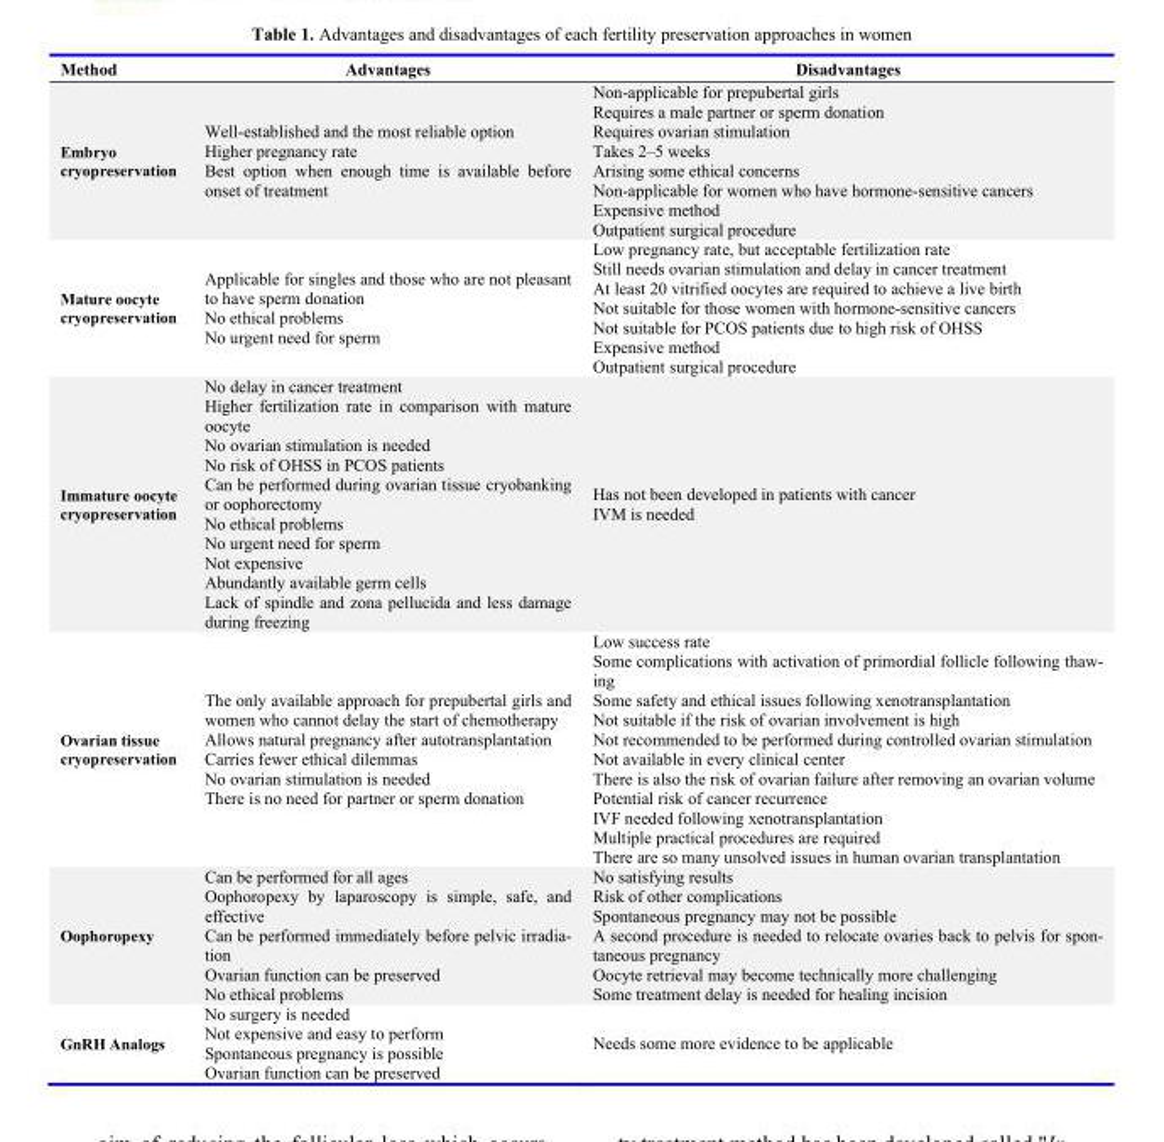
<table><thead><tr><td>Method</td><td>Advantages</td><td>Disadvantages</td></tr></thead><tbody><tr><td>Embryo cryopreservation</td><td>Well-established and the most reliable option Higher pregnancy rate Best option when enough time is available before onset of treatment</td><td>Non-applicable for prepubertal girls Requires a male partner or sperm donation Requires ovarian stimulation Takes 2–5 weeks Arising some ethical concerns Non-applicable for women who have hormone-sensitive cancers Expensive method Outpatient surgical procedure</td></tr><tr><td>Mature oocyte cryopreservation</td><td>Applicable for singles and those who are not pleasant to have sperm donation No ethical problems No urgent need for sperm</td><td>Low pregnancy rate, but acceptable fertilization rate Still needs ovarian stimulation and delay in cancer treatment At least 20 vitrified oocytes are required to achieve a live birth Not suitable for those women with hormone-sensitive cancers Not suitable for PCOS patients due to high risk of OHSS Expensive method Outpatient surgical procedure</td></tr><tr><td>Immature oocyte cryopreservation</td><td>No delay in cancer treatment Higher fertilization rate in comparison with mature oocyte No ovarian stimulation is needed No risk of OHSS in PCOS patients Can be performed during ovarian tissue cryobanking or oophorectomy No ethical problems No urgent need for sperm Not expensive Abundantly available germ cells Lack of spindle and zona pellucida and less damage during freezing</td><td>Has not been developed in patients with cancer IVM is needed</td></tr><tr><td>Ovarian tissue cryopreservation</td><td>The only available approach for prepubertal girls and women who cannot delay the start of chemotherapy Allows natural pregnancy after autotransplantation Carries fewer ethical dilemmas No ovarian stimulation is needed There is no need for partner or sperm donation</td><td>Low success rate Some complications with activation of primordial follicle following thaw- ing Some safety and ethical issues following xenotransplantation Not suitable if the risk of ovarian involvement is high Not recommended to be performed during controlled ovarian stimulation Not available in every clinical center There is also the risk of ovarian failure after removing an ovarian volume Potential risk of cancer recurrence IVF needed following xenotransplantation Multiple practical procedures are required There are so many unsolved issues in human ovarian transplantation</td></tr><tr><td>Oophoropexy</td><td>Can be performed for all ages Oophoropexy by laparoscopy is simple, safe, and effective Can be performed immediately before pelvic irradia- tion Ovarian function can be preserved No ethical problems</td><td>No satisfying results Risk of other complications Spontaneous pregnancy may not be possible A second procedure is needed to relocate ovaries back to pelvis for spon- taneous pregnancy Oocyte retrieval may become technically more challenging Some treatment delay is needed for healing incision</td></tr><tr><td>GnRH Analogs</td><td>No surgery is needed Not expensive and easy to perform Spontaneous pregnancy is possible Ovarian function can be preserved</td><td>Needs some more evidence to be applicable</td></tr></tbody></table>